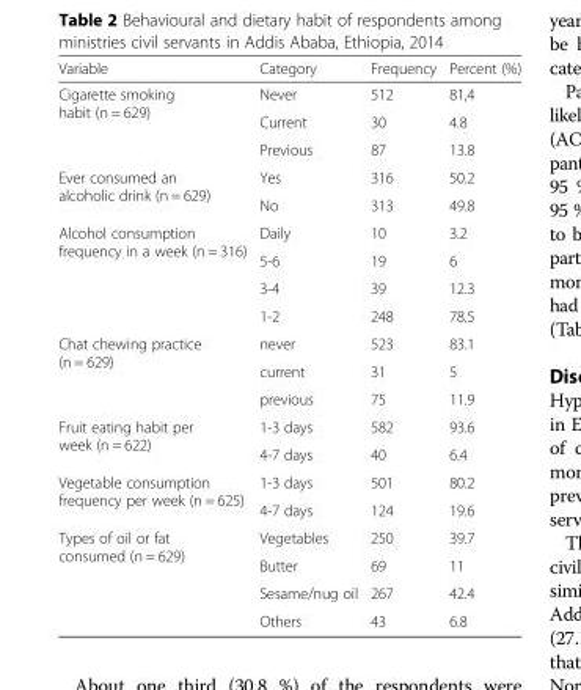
<table><thead><tr><td>Variable</td><td>Category</td><td>Frequency</td><td>Percent (%)</td></tr></thead><tbody><tr><td rowspan="3">Cigarette smoking habit (n = 629)</td><td>Never</td><td>512</td><td>81,4</td></tr><tr><td>Current</td><td>30</td><td>4.8</td></tr><tr><td>Previous</td><td>87</td><td>13.8</td></tr><tr><td rowspan="2">Ever consumed an alcoholic drink (n = 629)</td><td>Yes</td><td>316</td><td>50.2</td></tr><tr><td>No</td><td>313</td><td>49.8</td></tr><tr><td rowspan="4">Alcohol consumption frequency in a week (n = 316)</td><td>Daily</td><td>10</td><td>3.2</td></tr><tr><td>5-6</td><td>19</td><td>6</td></tr><tr><td>3-4</td><td>39</td><td>12.3</td></tr><tr><td>1-2</td><td>248</td><td>78.5</td></tr><tr><td rowspan="3">Chat chewing practice (n = 629)</td><td>never</td><td>523</td><td>83.1</td></tr><tr><td>current</td><td>31</td><td>5</td></tr><tr><td>previous</td><td>75</td><td>11.9</td></tr><tr><td rowspan="2">Fruit eating habit per week (n = 622)</td><td>1-3 days</td><td>582</td><td>93.6</td></tr><tr><td>4-7 days</td><td>40</td><td>6.4</td></tr><tr><td rowspan="2">Vegetable consumption frequency per week (n = 625)</td><td>1-3 days</td><td>501</td><td>80.2</td></tr><tr><td>4-7 days</td><td>124</td><td>19.6</td></tr><tr><td rowspan="4">Types of oil or fat consumed (n = 629)</td><td>Vegetables</td><td>250</td><td>39.7</td></tr><tr><td>Butter</td><td>69</td><td>11</td></tr><tr><td>Sesame/nug oil</td><td>267</td><td>42.4</td></tr><tr><td>Others</td><td>43</td><td>6.8</td></tr></tbody></table>